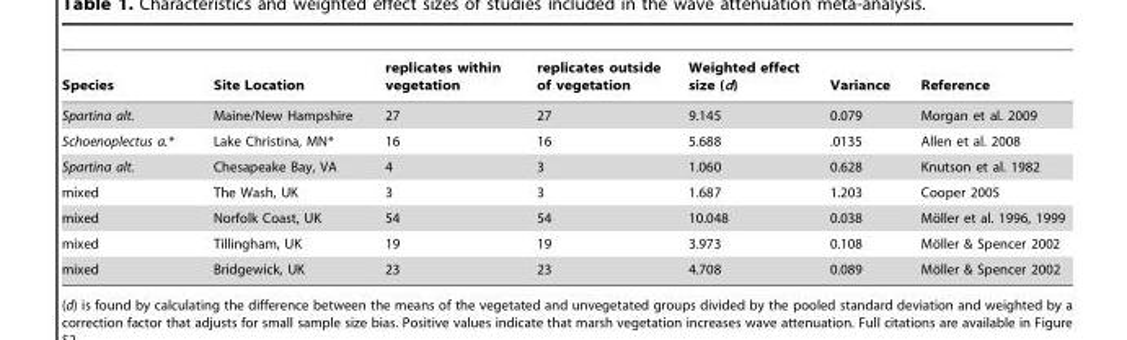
<table><thead><tr><td>Species</td><td>Site Location</td><td>replicates within vegetation</td><td>replicates outside of vegetation</td><td>Weighted effect size (d)</td><td>Variance</td><td>Reference</td></tr></thead><tbody><tr><td>Spartina alt.</td><td>Maine/New Hampshire</td><td>27</td><td>27</td><td>9.145</td><td>0.079</td><td>Morgan et al. 2009</td></tr><tr><td>Schoenoplectus a.*</td><td>Lake Christina, MN*</td><td>16</td><td>16</td><td>5.688</td><td>.0135</td><td>Allen et al. 2008</td></tr><tr><td>Spartina alt.</td><td>Chesapeake Bay, VA</td><td>4</td><td>3</td><td>1.060</td><td>0.628</td><td>Knutson et al. 1982</td></tr><tr><td>mixed</td><td>The Wash, UK</td><td>3</td><td>3</td><td>1.687</td><td>1.203</td><td>Cooper 2005</td></tr><tr><td>mixed</td><td>Norfolk Coast, UK</td><td>54</td><td>54</td><td>10.048</td><td>0.038</td><td>Mo¨ller et al. 1996, 1999</td></tr><tr><td>mixed</td><td>Tillingham, UK</td><td>19</td><td>19</td><td>3.973</td><td>0.108</td><td>Mo¨ller &amp; Spencer 2002</td></tr><tr><td>mixed</td><td>Bridgewick, UK</td><td>23</td><td>23</td><td>4.708</td><td>0.089</td><td>Mo¨ller &amp; Spencer 2002</td></tr></tbody></table>